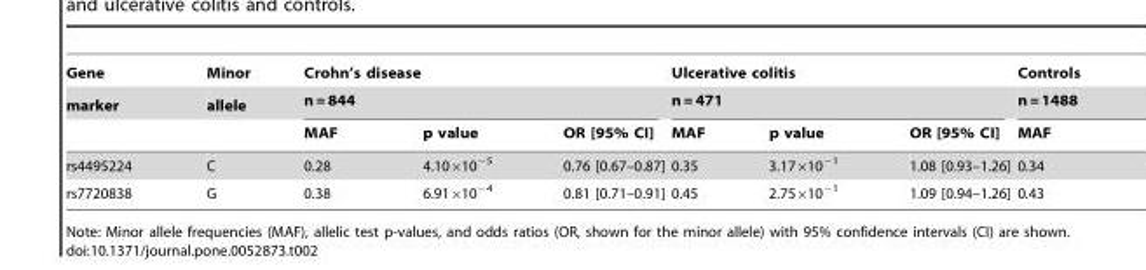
<table><thead><tr><td rowspan="3">Gene marker</td><td rowspan="3">Minor allele</td><td rowspan="2" colspan="3">Crohn’s disease n = 844</td><td rowspan="2" colspan="3">Ulcerative colitis n = 471</td><td rowspan="3">Controls n = 1488 MAF</td></tr><tr></tr><tr><td>MAF</td><td>p value</td><td>OR [95% CI]</td><td>MAF</td><td>p value</td><td>OR [95% CI]</td></tr></thead><tbody><tr><td>rs4495224</td><td>C</td><td>0.28</td><td>4.10×10<sup>−5</sup></td><td>0.76 [0.67–0.87]</td><td>0.35</td><td>3.17×10<sup>−1</sup></td><td>1.08 [0.93–1.26]</td><td>0.34</td></tr><tr><td>rs7720838</td><td>G</td><td>0.38</td><td>6.91×10<sup>−4</sup></td><td>0.81 [0.71–0.91]</td><td>0.45</td><td>2.75×10<sup>−1</sup></td><td>1.09 [0.94–1.26]</td><td>0.43</td></tr></tbody></table>